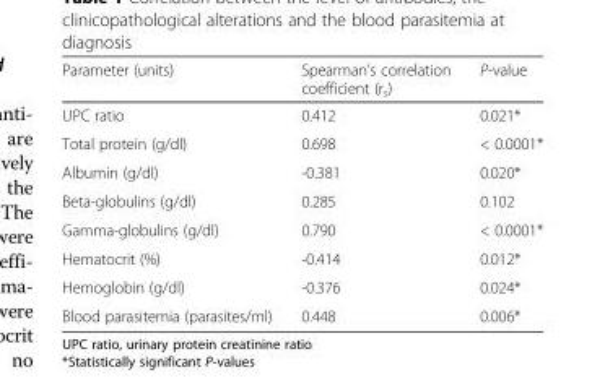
<table><thead><tr><td>Parameter (units)</td><td>Spearman’s correlation coefficient (r<sub>s</sub>)</td><td>P-value</td></tr></thead><tbody><tr><td>UPC ratio</td><td>0.412</td><td>0.021*</td></tr><tr><td>Total protein (g/dl)</td><td>0.698</td><td>&lt; 0.0001*</td></tr><tr><td>Albumin (g/dl)</td><td>-0.381</td><td>0.020*</td></tr><tr><td>Beta-globulins (g/dl)</td><td>0.285</td><td>0.102</td></tr><tr><td>Gamma-globulins (g/dl)</td><td>0.790</td><td>&lt; 0.0001*</td></tr><tr><td>Hematocrit (%)</td><td>-0.414</td><td>0.012*</td></tr><tr><td>Hemoglobin (g/dl)</td><td>-0.376</td><td>0.024*</td></tr><tr><td>Blood parasitemia (parasites/ml)</td><td>0.448</td><td>0.006*</td></tr></tbody></table>